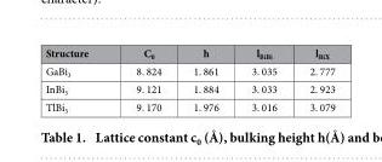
<table><thead><tr><td>Structure</td><td>C<sub>0</sub></td><td>h</td><td>l<sub>BiBi</sub></td><td>l<sub>BiX</sub></td></tr></thead><tbody><tr><td>GaBi<sub>3</sub></td><td>8. 824</td><td>1. 861</td><td>3. 035</td><td>2. 777</td></tr><tr><td>InBi<sub>3</sub></td><td>9. 121</td><td>1. 884</td><td>3. 033</td><td>2. 923</td></tr><tr><td>TlBi<sub>3</sub></td><td>9. 170</td><td>1. 976</td><td>3. 016</td><td>3. 079</td></tr></tbody></table>